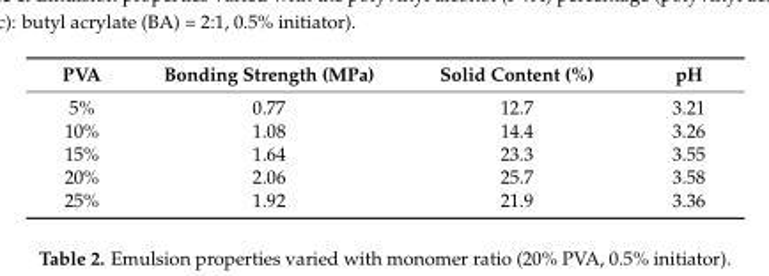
<table><thead><tr><td>PVA</td><td>Bonding Strength (MPa)</td><td>Solid Content (%)</td><td>pH</td></tr></thead><tbody><tr><td>5%</td><td>0.77</td><td>12.7</td><td>3.21</td></tr><tr><td>10%</td><td>1.08</td><td>14.4</td><td>3.26</td></tr><tr><td>15%</td><td>1.64</td><td>23.3</td><td>3.55</td></tr><tr><td>20%</td><td>2.06</td><td>25.7</td><td>3.58</td></tr><tr><td>25%</td><td>1.92</td><td>21.9</td><td>3.36</td></tr></tbody></table>